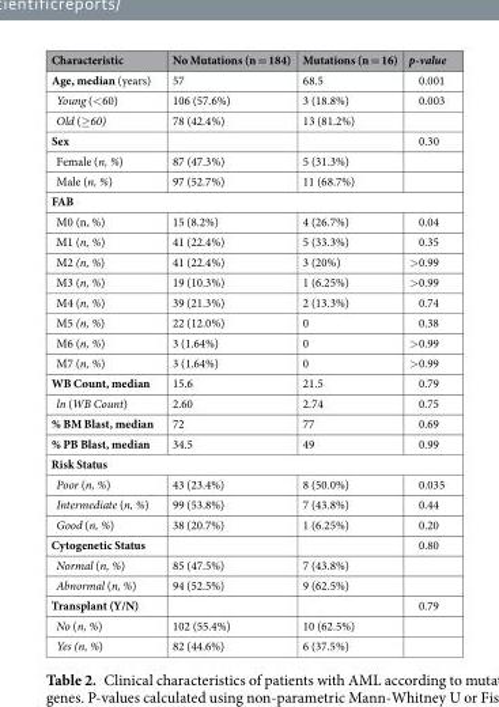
<table><thead><tr><td>Characteristic</td><td>No Mutations (n = 184)</td><td>Mutations (n = 16)</td><td>p-value</td></tr></thead><tbody><tr><td>Age, median (years)</td><td>57</td><td>68.5</td><td>0.001</td></tr><tr><td>Young (&lt;60)</td><td>106 (57.6%)</td><td>3 (18.8%)</td><td>0.003</td></tr><tr><td>Old (≥60)</td><td>78 (42.4%)</td><td>13 (81.2%)</td><td></td></tr><tr><td>Sex</td><td></td><td></td><td>0.30</td></tr><tr><td>Female (n, %)</td><td>87 (47.3%)</td><td>5 (31.3%)</td><td></td></tr><tr><td>Male (n, %)</td><td>97 (52.7%)</td><td>11 (68.7%)</td><td></td></tr><tr><td colspan="4">FAB</td></tr><tr><td>M0 (n, %)</td><td>15 (8.2%)</td><td>4 (26.7%)</td><td>0.04</td></tr><tr><td>M1 (n, %)</td><td>41 (22.4%)</td><td>5 (33.3%)</td><td>0.35</td></tr><tr><td>M2 (n, %)</td><td>41 (22.4%)</td><td>3 (20%)</td><td>&gt;0.99</td></tr><tr><td>M3 (n, %)</td><td>19 (10.3%)</td><td>1 (6.25%)</td><td>&gt;0.99</td></tr><tr><td>M4 (n, %)</td><td>39 (21.3%)</td><td>2 (13.3%)</td><td>0.74</td></tr><tr><td>M5 (n, %)</td><td>22 (12.0%)</td><td>0</td><td>0.38</td></tr><tr><td>M6 (n, %)</td><td>3 (1.64%)</td><td>0</td><td>&gt;0.99</td></tr><tr><td>M7 (n, %)</td><td>3 (1.64%)</td><td>0</td><td>&gt;0.99</td></tr><tr><td>WB Count, median</td><td>15.6</td><td>21.5</td><td>0.79</td></tr><tr><td>ln (WB Count)</td><td>2.60</td><td>2.74</td><td>0.75</td></tr><tr><td>% BM Blast, median</td><td>72</td><td>77</td><td>0.69</td></tr><tr><td>% PB Blast, median</td><td>34.5</td><td>49</td><td>0.99</td></tr><tr><td colspan="4">Risk Status</td></tr><tr><td>Poor (n, %)</td><td>43 (23.4%)</td><td>8 (50.0%)</td><td>0.035</td></tr><tr><td>Intermediate (n, %)</td><td>99 (53.8%)</td><td>7 (43.8%)</td><td>0.44</td></tr><tr><td>Good (n, %)</td><td>38 (20.7%)</td><td>1 (6.25%)</td><td>0.20</td></tr><tr><td>Cytogenetic Status</td><td></td><td></td><td>0.80</td></tr><tr><td>Normal (n, %)</td><td>85 (47.5%)</td><td>7 (43.8%)</td><td></td></tr><tr><td>Abnormal (n, %)</td><td>94 (52.5%)</td><td>9 (62.5%)</td><td></td></tr><tr><td>Transplant (Y/N)</td><td></td><td></td><td>0.79</td></tr><tr><td>No (n, %)</td><td>102 (55.4%)</td><td>10 (62.5%)</td><td></td></tr><tr><td>Yes (n, %)</td><td>82 (44.6%)</td><td>6 (37.5%)</td><td></td></tr></tbody></table>